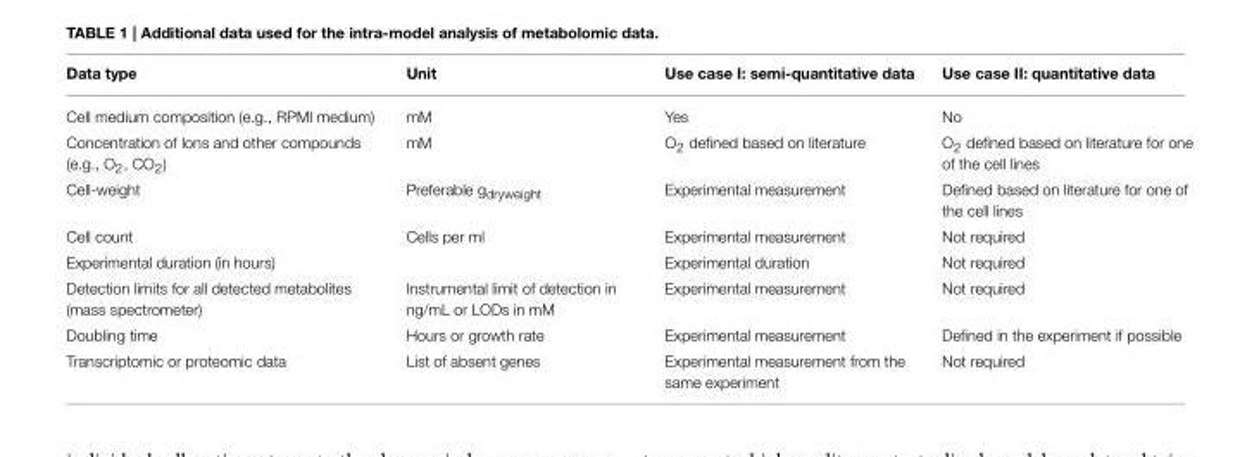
<table><thead><tr><td>Data type</td><td>Unit</td><td>Use case I: semi-quantitative data</td><td>Use case II: quantitative data</td></tr></thead><tbody><tr><td>Cell medium composition (e.g., RPMI medium)</td><td>mM</td><td>Yes</td><td>No</td></tr><tr><td>Concentration of Ions and other compounds (e.g., O<sub>2</sub>, CO<sub>2</sub>)</td><td>mM</td><td>O<sub>2</sub> defined based on literature</td><td>O<sub>2</sub> defined based on literature for one of the cell lines</td></tr><tr><td>Cell-weight</td><td>Preferable gdryweight</td><td>Experimental measurement</td><td>Defined based on literature for one of the cell lines</td></tr><tr><td>Cell count</td><td>Cells per ml</td><td>Experimental measurement</td><td>Not required</td></tr><tr><td>Experimental duration (in hours)</td><td></td><td>Experimental duration</td><td>Not required</td></tr><tr><td>Detection limits for all detected metabolites (mass spectrometer)</td><td>Instrumental limit of detection in ng/mL or LODs in mM</td><td>Experimental measurement</td><td>Not required</td></tr><tr><td>Doubling time</td><td>Hours or growth rate</td><td>Experimental measurement</td><td>Defined in the experiment if possible</td></tr><tr><td>Transcriptomic or proteomic data</td><td>List of absent genes</td><td>Experimental measurement from the same experiment</td><td>Not required</td></tr></tbody></table>